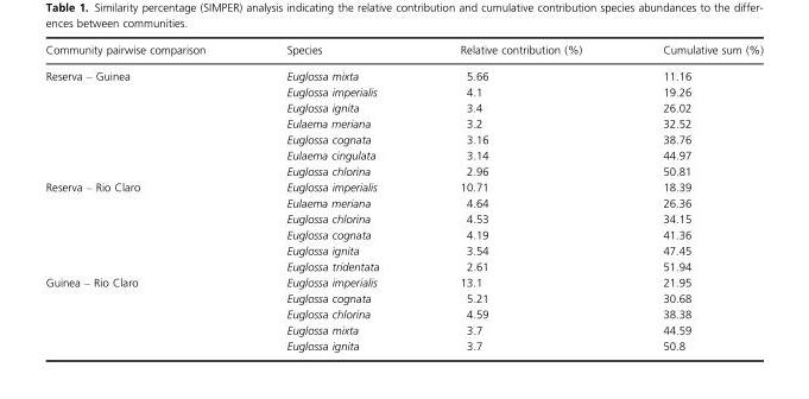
<table><thead><tr><td>Community pairwise comparison</td><td>Species</td><td>Relative contribution (%)</td><td>Cumulative sum (%)</td></tr></thead><tbody><tr><td rowspan="7">Reserva – Guinea</td><td>Euglossa mixta</td><td>5.66</td><td>11.16</td></tr><tr><td>Euglossa imperialis</td><td>4.1</td><td>19.26</td></tr><tr><td>Euglossa ignita</td><td>3.4</td><td>26.02</td></tr><tr><td>Eulaema meriana</td><td>3.2</td><td>32.52</td></tr><tr><td>Euglossa cognata</td><td>3.16</td><td>38.76</td></tr><tr><td>Eulaema cingulata</td><td>3.14</td><td>44.97</td></tr><tr><td>Euglossa chlorina</td><td>2.96</td><td>50.81</td></tr><tr><td rowspan="6">Reserva – Rio Claro</td><td>Euglossa imperialis</td><td>10.71</td><td>18.39</td></tr><tr><td>Eulaema meriana</td><td>4.64</td><td>26.36</td></tr><tr><td>Euglossa chlorina</td><td>4.53</td><td>34.15</td></tr><tr><td>Euglossa cognata</td><td>4.19</td><td>41.36</td></tr><tr><td>Euglossa ignita</td><td>3.54</td><td>47.45</td></tr><tr><td>Euglossa tridentata</td><td>2.61</td><td>51.94</td></tr><tr><td rowspan="5">Guinea – Rio Claro</td><td>Euglossa imperialis</td><td>13.1</td><td>21.95</td></tr><tr><td>Euglossa cognata</td><td>5.21</td><td>30.68</td></tr><tr><td>Euglossa chlorina</td><td>4.59</td><td>38.38</td></tr><tr><td>Euglossa mixta</td><td>3.7</td><td>44.59</td></tr><tr><td>Euglossa ignita</td><td>3.7</td><td>50.8</td></tr></tbody></table>